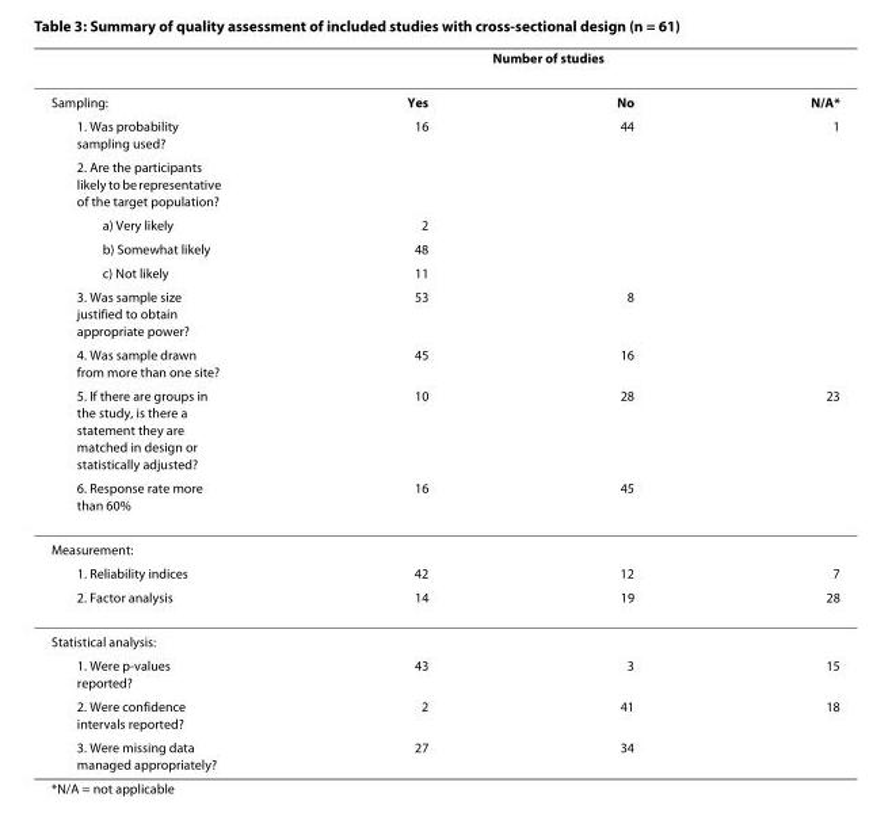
<table><thead><tr><td rowspan="2">Sampling:</td><td colspan="3">Number of studies</td></tr><tr><td>Yes</td><td>No</td><td>N/A*</td></tr></thead><tbody><tr><td>1. Was probability sampling used?</td><td>16</td><td>44</td><td>1</td></tr><tr><td colspan="4">2. Are the participants likely to be representative of the target population?</td></tr><tr><td>a) Very likely</td><td>2</td><td></td><td></td></tr><tr><td>b) Somewhat likely</td><td>48</td><td></td><td></td></tr><tr><td>c) Not likely</td><td>11</td><td></td><td></td></tr><tr><td>3. Was sample size justified to obtain appropriate power?</td><td>53</td><td>8</td><td></td></tr><tr><td>4. Was sample drawn from more than one site?</td><td>45</td><td>16</td><td></td></tr><tr><td>5. If there are groups in the study, is there a statement they are matched in design or statistically adjusted?</td><td>10</td><td>28</td><td>23</td></tr><tr><td>6. Response rate more than 60%</td><td>16</td><td>45</td><td></td></tr><tr><td colspan="4">Measurement:</td></tr><tr><td>1. Reliability indices</td><td>42</td><td>12</td><td>7</td></tr><tr><td>2. Factor analysis</td><td>14</td><td>19</td><td>28</td></tr><tr><td colspan="4">Statistical analysis:</td></tr><tr><td>1. Were p-values reported?</td><td>43</td><td>3</td><td>15</td></tr><tr><td>2. Were confidence intervals reported?</td><td>2</td><td>41</td><td>18</td></tr><tr><td>3. Were missing data managed appropriately?</td><td>27</td><td>34</td><td></td></tr></tbody></table>